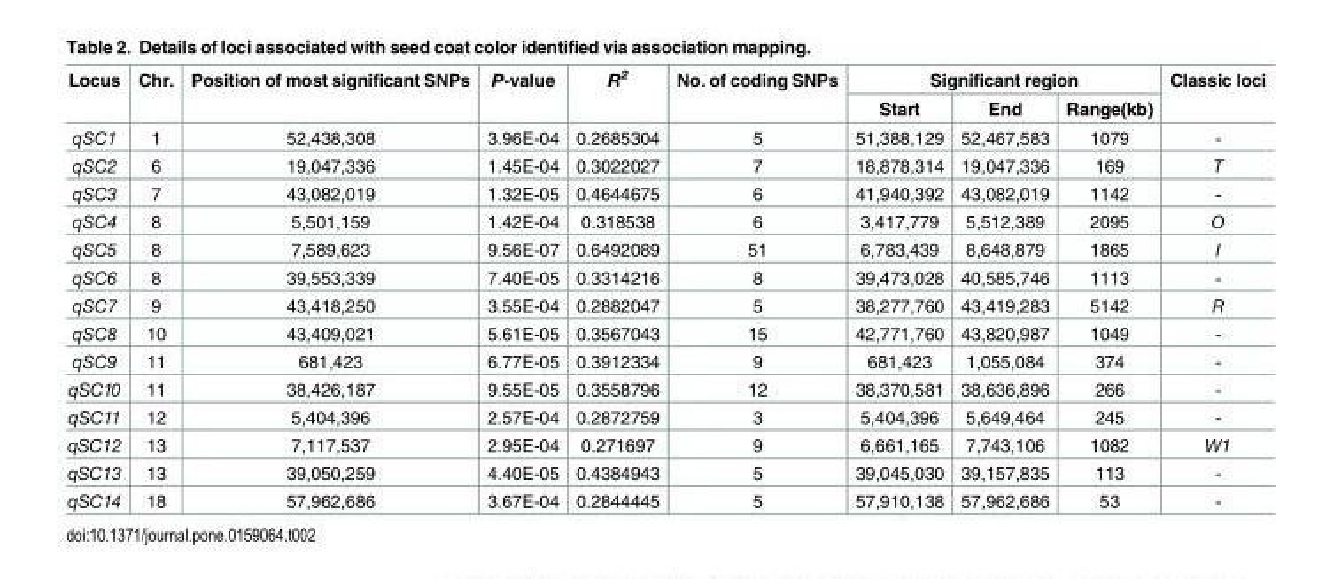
<table><thead><tr><td rowspan="2">Locus</td><td rowspan="2">Chr.</td><td rowspan="2">Position of most significant SNPs</td><td rowspan="2">P-value</td><td rowspan="2">R<sup>2</sup></td><td rowspan="2">No. of coding SNPs</td><td colspan="3">Significant region</td><td rowspan="2">Classic loci</td></tr><tr><td>Start</td><td>End</td><td>Range(kb)</td></tr></thead><tbody><tr><td>qSC1</td><td>1</td><td>52,438,308</td><td>3.96E-04</td><td>0.2685304</td><td>5</td><td>51,388,129</td><td>52,467,583</td><td>1079</td><td>-</td></tr><tr><td>qSC2</td><td>6</td><td>19,047,336</td><td>1.45E-04</td><td>0.3022027</td><td>7</td><td>18,878,314</td><td>19,047,336</td><td>169</td><td>T</td></tr><tr><td>qSC3</td><td>7</td><td>43,082,019</td><td>1.32E-05</td><td>0.4644675</td><td>6</td><td>41,940,392</td><td>43,082,019</td><td>1142</td><td>-</td></tr><tr><td>qSC4</td><td>8</td><td>5,501,159</td><td>1.42E-04</td><td>0.318538</td><td>6</td><td>3,417,779</td><td>5,512,389</td><td>2095</td><td>O</td></tr><tr><td>qSC5</td><td>8</td><td>7,589,623</td><td>9.56E-07</td><td>0.6492089</td><td>51</td><td>6,783,439</td><td>8,648,879</td><td>1865</td><td>I</td></tr><tr><td>qSC6</td><td>8</td><td>39,553,339</td><td>7.40E-05</td><td>0.3314216</td><td>8</td><td>39,473,028</td><td>40,585,746</td><td>1113</td><td>-</td></tr><tr><td>qSC7</td><td>9</td><td>43,418,250</td><td>3.55E-04</td><td>0.2882047</td><td>5</td><td>38,277,760</td><td>43,419,283</td><td>5142</td><td>R</td></tr><tr><td>qSC8</td><td>10</td><td>43,409,021</td><td>5.61E-05</td><td>0.3567043</td><td>15</td><td>42,771,760</td><td>43,820,987</td><td>1049</td><td>-</td></tr><tr><td>qSC9</td><td>11</td><td>681,423</td><td>6.77E-05</td><td>0.3912334</td><td>9</td><td>681,423</td><td>1,055,084</td><td>374</td><td>-</td></tr><tr><td>qSC10</td><td>11</td><td>38,426,187</td><td>9.55E-05</td><td>0.3558796</td><td>12</td><td>38,370,581</td><td>38,636,896</td><td>266</td><td>-</td></tr><tr><td>qSC11</td><td>12</td><td>5,404,396</td><td>2.57E-04</td><td>0.2872759</td><td>3</td><td>5,404,396</td><td>5,649,464</td><td>245</td><td>-</td></tr><tr><td>qSC12</td><td>13</td><td>7,117,537</td><td>2.95E-04</td><td>0.271697</td><td>9</td><td>6,661,165</td><td>7,743,106</td><td>1082</td><td>W1</td></tr><tr><td>qSC13</td><td>13</td><td>39,050,259</td><td>4.40E-05</td><td>0.4384943</td><td>5</td><td>39,045,030</td><td>39,157,835</td><td>113</td><td>-</td></tr><tr><td>qSC14</td><td>18</td><td>57,962,686</td><td>3.67E-04</td><td>0.2844445</td><td>5</td><td>57,910,138</td><td>57,962,686</td><td>53</td><td>-</td></tr></tbody></table>